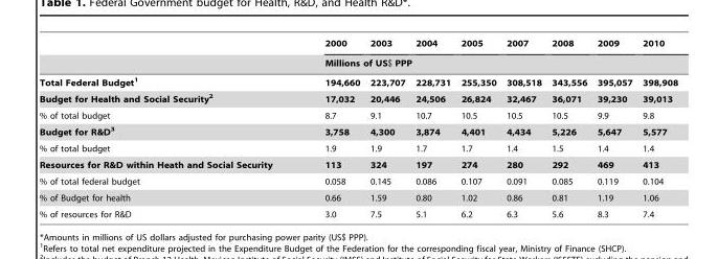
<table><thead><tr><td rowspan="2"></td><td>2000</td><td>2003</td><td>2004</td><td>2005</td><td>2007</td><td>2008</td><td>2009</td><td>2010</td></tr><tr><td colspan="8">Millions of US$ PPP</td></tr></thead><tbody><tr><td>Total Federal Budget1</td><td>194,660</td><td>223,707</td><td>228,731</td><td>255,350</td><td>308,518</td><td>343,556</td><td>395,057</td><td>398,908</td></tr><tr><td>Budget for Health and Social Security2</td><td>17,032</td><td>20,446</td><td>24,506</td><td>26,824</td><td>32,467</td><td>36,071</td><td>39,230</td><td>39,013</td></tr><tr><td>% of total budget</td><td>8.7</td><td>9.1</td><td>10.7</td><td>10.5</td><td>10.5</td><td>10.5</td><td>9.9</td><td>9.8</td></tr><tr><td>Budget for R&amp;D3</td><td>3,758</td><td>4,300</td><td>3,874</td><td>4,401</td><td>4,434</td><td>5,226</td><td>5,647</td><td>5,577</td></tr><tr><td>% of total budget</td><td>1.9</td><td>1.9</td><td>1.7</td><td>1.7</td><td>1.4</td><td>1.5</td><td>1.4</td><td>1.4</td></tr><tr><td>Resources for R&amp;D within Heath and Social Security</td><td>113</td><td>324</td><td>197</td><td>274</td><td>280</td><td>292</td><td>469</td><td>413</td></tr><tr><td>% of total federal budget</td><td>0.058</td><td>0.145</td><td>0.086</td><td>0.107</td><td>0.091</td><td>0.085</td><td>0.119</td><td>0.104</td></tr><tr><td>% of Budget for health</td><td>0.66</td><td>1.59</td><td>0.80</td><td>1.02</td><td>0.86</td><td>0.81</td><td>1.19</td><td>1.06</td></tr><tr><td>% of resources for R&amp;D</td><td>3.0</td><td>7.5</td><td>5.1</td><td>6.2</td><td>6.3</td><td>5.6</td><td>8.3</td><td>7.4</td></tr></tbody></table>